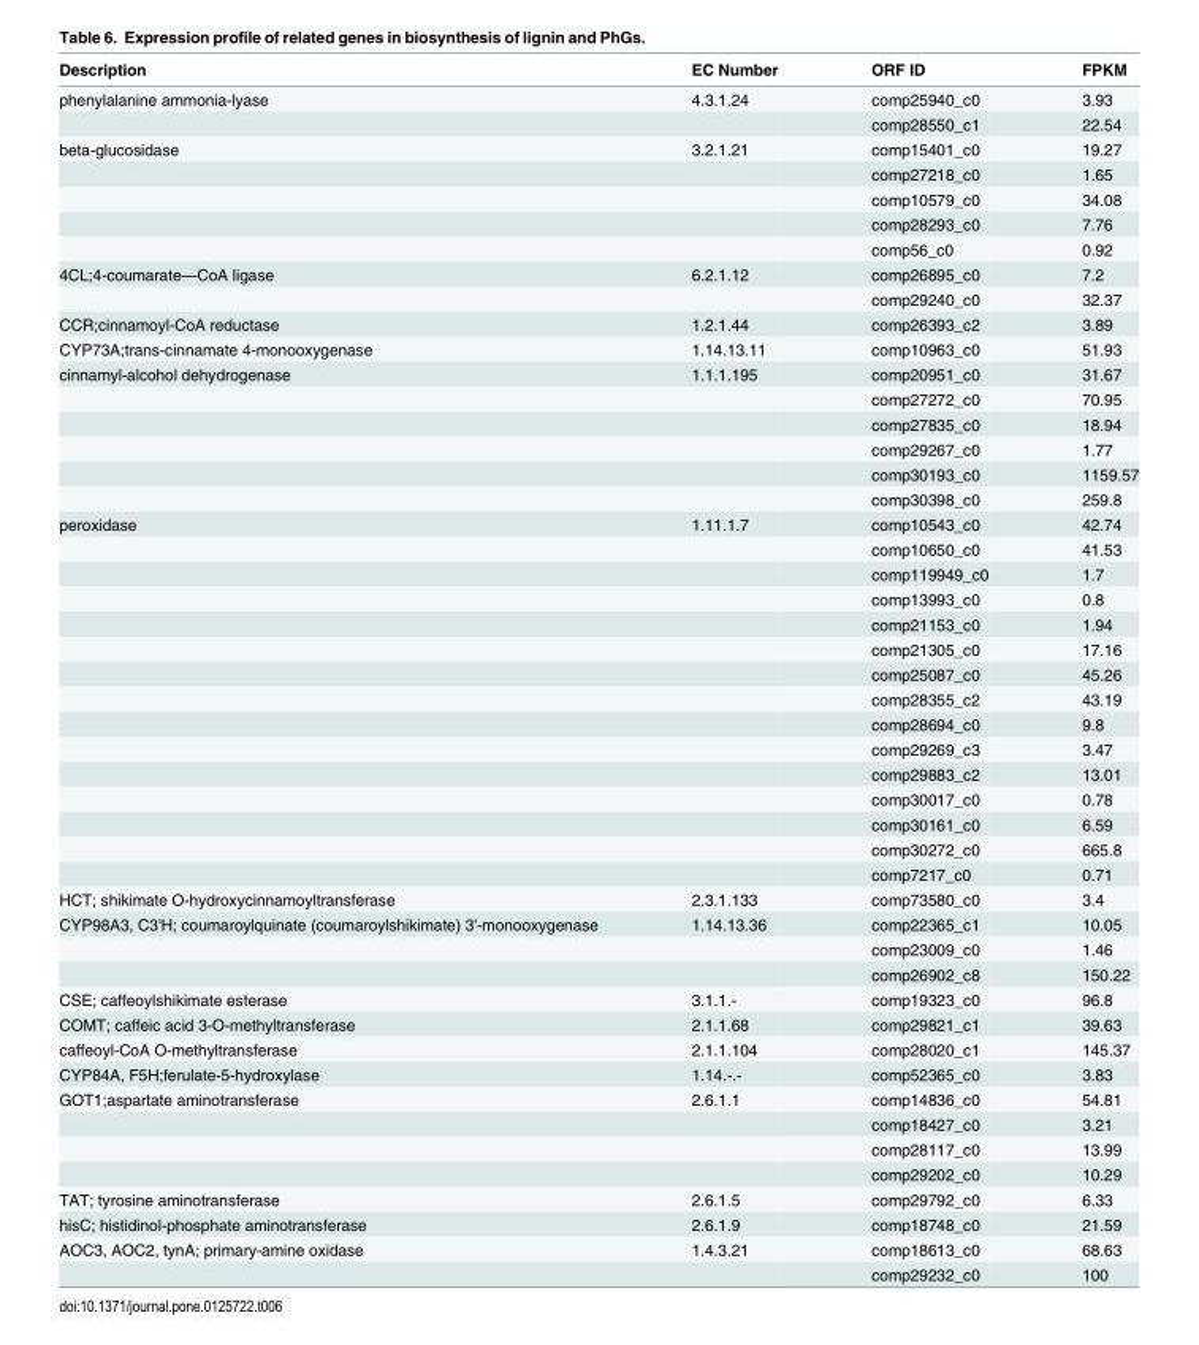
<table><thead><tr><td>Description</td><td>EC Number</td><td>ORF ID</td><td>FPKM</td></tr></thead><tbody><tr><td rowspan="2">phenylalanine ammonia-lyase</td><td>4.3.1.24</td><td>comp25940_c0</td><td>3.93</td></tr><tr><td></td><td>comp28550_c1</td><td>22.54</td></tr><tr><td rowspan="5">beta-glucosidase</td><td>3.2.1.21</td><td>comp15401_c0</td><td>19.27</td></tr><tr><td></td><td>comp27218_c0</td><td>1.65</td></tr><tr><td></td><td>comp10579_c0</td><td>34.08</td></tr><tr><td></td><td>comp28293_c0</td><td>7.76</td></tr><tr><td></td><td>comp56_c0</td><td>0.92</td></tr><tr><td rowspan="2">4CL;4-coumarate—CoA ligase</td><td>6.2.1.12</td><td>comp26895_c0</td><td>7.2</td></tr><tr><td></td><td>comp29240_c0</td><td>32.37</td></tr><tr><td>CCR;cinnamoyl-CoA reductase</td><td>1.2.1.44</td><td>comp26393_c2</td><td>3.89</td></tr><tr><td>CYP73A;trans-cinnamate 4-monooxygenase</td><td>1.14.13.11</td><td>comp10963_c0</td><td>51.93</td></tr><tr><td rowspan="6">cinnamyl-alcohol dehydrogenase</td><td>1.1.1.195</td><td>comp20951_c0</td><td>31.67</td></tr><tr><td></td><td>comp27272_c0</td><td>70.95</td></tr><tr><td></td><td>comp27835_c0</td><td>18.94</td></tr><tr><td></td><td>comp29267_c0</td><td>1.77</td></tr><tr><td></td><td>comp30193_c0</td><td>1159.57</td></tr><tr><td></td><td>comp30398_c0</td><td>259.8</td></tr><tr><td rowspan="15">peroxidase</td><td>1.11.1.7</td><td>comp10543_c0</td><td>42.74</td></tr><tr><td></td><td>comp10650_c0</td><td>41.53</td></tr><tr><td></td><td>comp119949_c0</td><td>1.7</td></tr><tr><td></td><td>comp13993_c0</td><td>0.8</td></tr><tr><td></td><td>comp21153_c0</td><td>1.94</td></tr><tr><td></td><td>comp21305_c0</td><td>17.16</td></tr><tr><td></td><td>comp25087_c0</td><td>45.26</td></tr><tr><td></td><td>comp28355_c2</td><td>43.19</td></tr><tr><td></td><td>comp28694_c0</td><td>9.8</td></tr><tr><td></td><td>comp29269_c3</td><td>3.47</td></tr><tr><td></td><td>comp29883_c2</td><td>13.01</td></tr><tr><td></td><td>comp30017_c0</td><td>0.78</td></tr><tr><td></td><td>comp30161_c0</td><td>6.59</td></tr><tr><td></td><td>comp30272_c0</td><td>665.8</td></tr><tr><td></td><td>comp7217_c0</td><td>0.71</td></tr><tr><td>HCT; shikimate O-hydroxycinnamoyltransferase</td><td>2.3.1.133</td><td>comp73580_c0</td><td>3.4</td></tr><tr><td rowspan="3">CYP98A3, C3&#x27;H; coumaroylquinate (coumaroylshikimate) 3&#x27;-monooxygenase</td><td>1.14.13.36</td><td>comp22365_c1</td><td>10.05</td></tr><tr><td></td><td>comp23009_c0</td><td>1.46</td></tr><tr><td></td><td>comp26902_c8</td><td>150.22</td></tr><tr><td>CSE; caffeoylshikimate esterase</td><td>3.1.1.-</td><td>comp19323_c0</td><td>96.8</td></tr><tr><td>COMT; caffeic acid 3-O-methyltransferase</td><td>2.1.1.68</td><td>comp29821_c1</td><td>39.63</td></tr><tr><td>caffeoyl-CoA O-methyltransferase</td><td>2.1.1.104</td><td>comp28020_c1</td><td>145.37</td></tr><tr><td>CYP84A, F5H;ferulate-5-hydroxylase</td><td>1.14.-.-</td><td>comp52365_c0</td><td>3.83</td></tr><tr><td rowspan="4">GOT1;aspartate aminotransferase</td><td>2.6.1.1</td><td>comp14836_c0</td><td>54.81</td></tr><tr><td></td><td>comp18427_c0</td><td>3.21</td></tr><tr><td></td><td>comp28117_c0</td><td>13.99</td></tr><tr><td></td><td>comp29202_c0</td><td>10.29</td></tr><tr><td>TAT; tyrosine aminotransferase</td><td>2.6.1.5</td><td>comp29792_c0</td><td>6.33</td></tr><tr><td>hisC; histidinol-phosphate aminotransferase</td><td>2.6.1.9</td><td>comp18748_c0</td><td>21.59</td></tr><tr><td rowspan="2">AOC3, AOC2, tynA; primary-amine oxidase</td><td>1.4.3.21</td><td>comp18613_c0</td><td>68.63</td></tr><tr><td></td><td>comp29232_c0</td><td>100</td></tr></tbody></table>